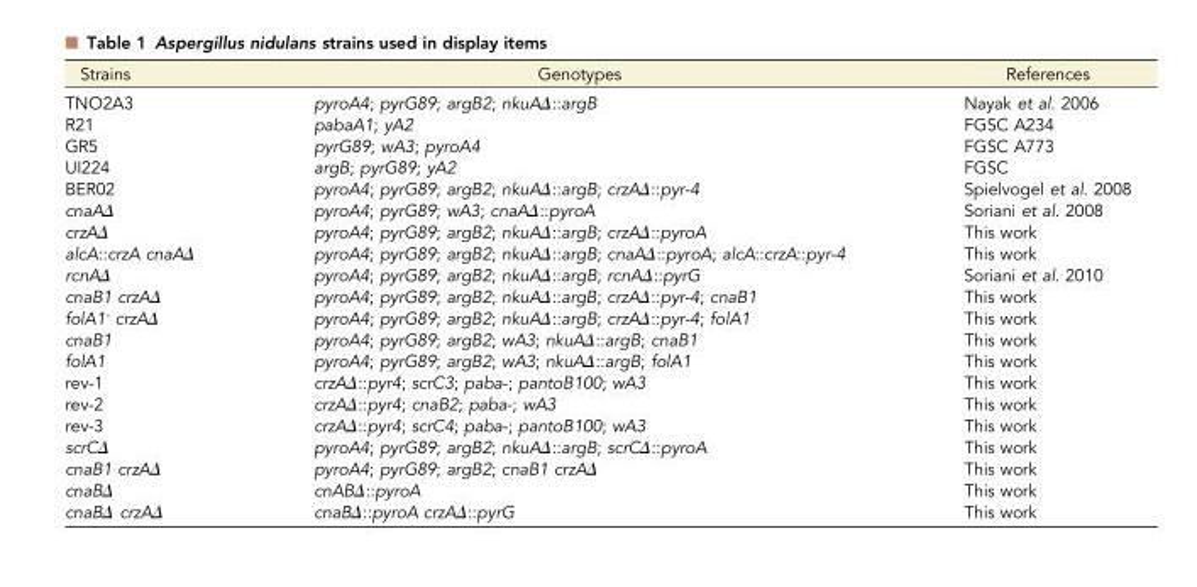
<table><thead><tr><td>Strains</td><td>Genotypes</td><td>References</td></tr></thead><tbody><tr><td>TNO2A3</td><td>pyroA4; pyrG89; argB2; nkuAΔ::argB</td><td>Nayak et al. 2006</td></tr><tr><td>R21</td><td>pabaA1; yA2</td><td>FGSC A234</td></tr><tr><td>GR5</td><td>pyrG89; wA3; pyroA4</td><td>FGSC A773</td></tr><tr><td>UI224</td><td>argB; pyrG89; yA2</td><td>FGSC</td></tr><tr><td>BER02</td><td>pyroA4; pyrG89; argB2; nkuAΔ::argB; crzAΔ::pyr-4</td><td>Spielvogel et al. 2008</td></tr><tr><td>cnaAΔ</td><td>pyroA4; pyrG89; wA3; cnaAΔ::pyroA</td><td>Soriani et al. 2008</td></tr><tr><td>crzAΔ</td><td>pyroA4; pyrG89; argB2; nkuAΔ::argB; crzAΔ::pyroA</td><td>This work</td></tr><tr><td>alcA::crzA cnaAΔ</td><td>pyroA4; pyrG89; argB2; nkuAΔ::argB; cnaAΔ::pyroA; alcA::crzA::pyr-4</td><td>This work</td></tr><tr><td>rcnAΔ</td><td>pyroA4; pyrG89; argB2; nkuAΔ::argB; rcnAΔ::pyrG</td><td>Soriani et al. 2010</td></tr><tr><td>cnaB1 crzAΔ</td><td>pyroA4; pyrG89; argB2; nkuAΔ::argB; crzAΔ::pyr-4; cnaB1</td><td>This work</td></tr><tr><td>folA1<sup>-</sup> crzAΔ</td><td>pyroA4; pyrG89; argB2; nkuAΔ::argB; crzAΔ::pyr-4; folA1</td><td>This work</td></tr><tr><td>cnaB1</td><td>pyroA4; pyrG89; argB2; wA3; nkuAΔ::argB; cnaB1</td><td>This work</td></tr><tr><td>folA1</td><td>pyroA4; pyrG89; argB2; wA3; nkuAΔ::argB; folA1</td><td>This work</td></tr><tr><td>rev-1</td><td>crzAΔ::pyr4; scrC3; paba-; pantoB100; wA3</td><td>This work</td></tr><tr><td>rev-2</td><td>crzAΔ::pyr4; cnaB2; paba-; wA3</td><td>This work</td></tr><tr><td>rev-3</td><td>crzAΔ::pyr4; scrC4; paba-; pantoB100; wA3</td><td>This work</td></tr><tr><td>scrCΔ</td><td>pyroA4; pyrG89; argB2; nkuAΔ::argB; scrCΔ::pyroA</td><td>This work</td></tr><tr><td>cnaB1 crzAΔ</td><td>pyroA4; pyrG89; argB2; cnaB1 crzAΔ</td><td>This work</td></tr><tr><td>cnaBΔ</td><td>cnABΔ::pyroA</td><td>This work</td></tr><tr><td>cnaBΔ crzAΔ</td><td>cnaBΔ::pyroA crzAΔ::pyrG</td><td>This work</td></tr></tbody></table>